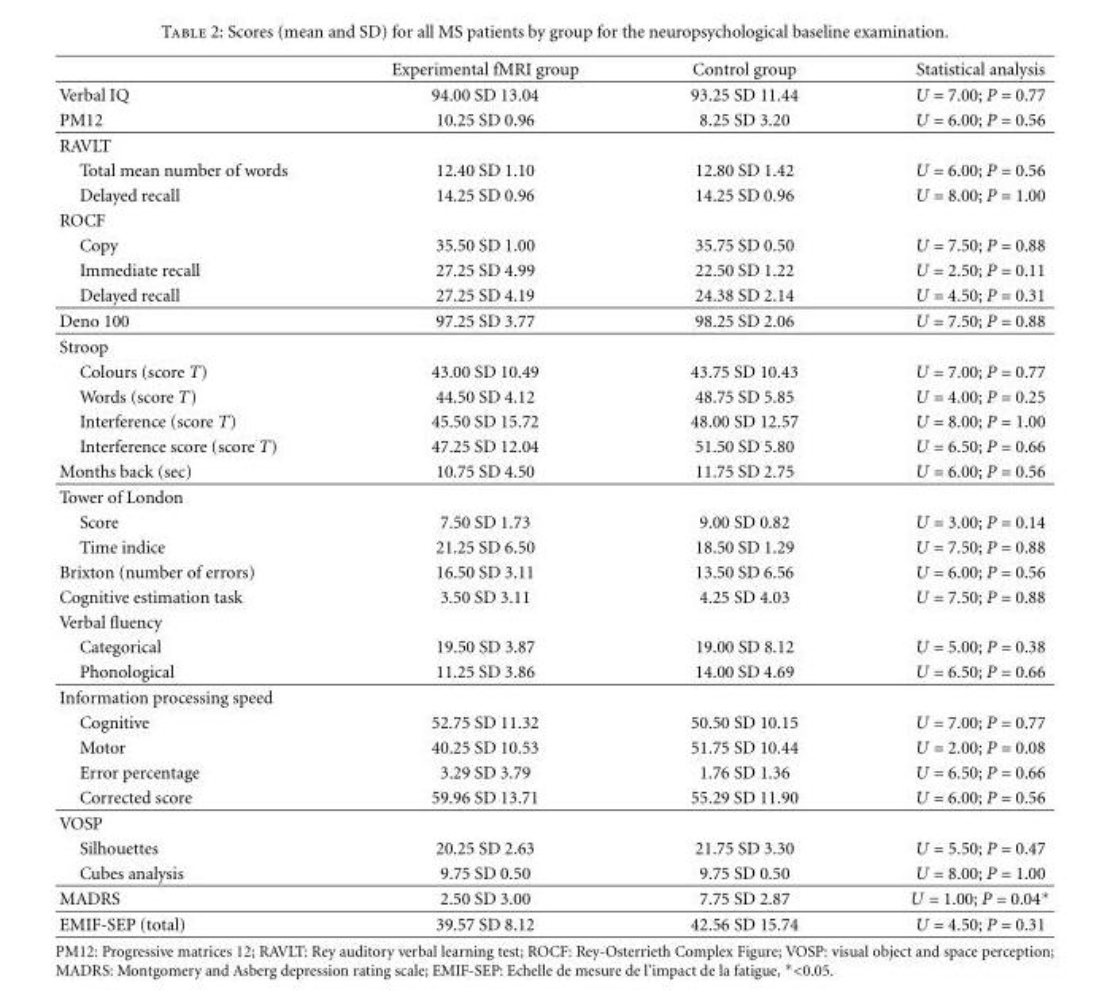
<table><thead><tr><td></td><td>Experimental fMRI group</td><td>Control group</td><td>Statistical analysis</td></tr></thead><tbody><tr><td>Verbal IQ</td><td>94.00 SD 13.04</td><td>93.25 SD 11.44</td><td>U = 7.00; P = 0.77</td></tr><tr><td>PM12</td><td>10.25 SD 0.96</td><td>8.25 SD 3.20</td><td>U = 6.00; P = 0.56</td></tr><tr><td colspan="4">RAVLT</td></tr><tr><td>Total mean number of words</td><td>12.40 SD 1.10</td><td>12.80 SD 1.42</td><td>U = 6.00; P = 0.56</td></tr><tr><td>Delayed recall</td><td>14.25 SD 0.96</td><td>14.25 SD 0.96</td><td>U = 8.00; P = 1.00</td></tr><tr><td colspan="4">ROCF</td></tr><tr><td>Copy</td><td>35.50 SD 1.00</td><td>35.75 SD 0.50</td><td>U = 7.50; P = 0.88</td></tr><tr><td>Immediate recall</td><td>27.25 SD 4.99</td><td>22.50 SD 1.22</td><td>U = 2.50; P = 0.11</td></tr><tr><td>Delayed recall</td><td>27.25 SD 4.19</td><td>24.38 SD 2.14</td><td>U = 4.50; P = 0.31</td></tr><tr><td>Deno 100</td><td>97.25 SD 3.77</td><td>98.25 SD 2.06</td><td>U = 7.50; P = 0.88</td></tr><tr><td colspan="4">Stroop</td></tr><tr><td>Colours (score T)</td><td>43.00 SD 10.49</td><td>43.75 SD 10.43</td><td>U = 7.00; P = 0.77</td></tr><tr><td>Words (score T)</td><td>44.50 SD 4.12</td><td>48.75 SD 5.85</td><td>U = 4.00; P = 0.25</td></tr><tr><td>Interference (score T)</td><td>45.50 SD 15.72</td><td>48.00 SD 12.57</td><td>U = 8.00; P = 1.00</td></tr><tr><td>Interference score (score T)</td><td>47.25 SD 12.04</td><td>51.50 SD 5.80</td><td>U = 6.50; P = 0.66</td></tr><tr><td>Months back (sec)</td><td>10.75 SD 4.50</td><td>11.75 SD 2.75</td><td>U = 6.00; P = 0.56</td></tr><tr><td colspan="4">Tower of London</td></tr><tr><td>Score</td><td>7.50 SD 1.73</td><td>9.00 SD 0.82</td><td>U = 3.00; P = 0.14</td></tr><tr><td>Time indice</td><td>21.25 SD 6.50</td><td>18.50 SD 1.29</td><td>U = 7.50; P = 0.88</td></tr><tr><td>Brixton (number of errors)</td><td>16.50 SD 3.11</td><td>13.50 SD 6.56</td><td>U = 6.00; P = 0.56</td></tr><tr><td>Cognitive estimation task</td><td>3.50 SD 3.11</td><td>4.25 SD 4.03</td><td>U = 7.50; P = 0.88</td></tr><tr><td colspan="4">Verbal fluency</td></tr><tr><td>Categorical</td><td>19.50 SD 3.87</td><td>19.00 SD 8.12</td><td>U = 5.00; P = 0.38</td></tr><tr><td>Phonological</td><td>11.25 SD 3.86</td><td>14.00 SD 4.69</td><td>U = 6.50; P = 0.66</td></tr><tr><td colspan="4">Information processing speed</td></tr><tr><td>Cognitive</td><td>52.75 SD 11.32</td><td>50.50 SD 10.15</td><td>U = 7.00; P = 0.77</td></tr><tr><td>Motor</td><td>40.25 SD 10.53</td><td>51.75 SD 10.44</td><td>U = 2.00; P = 0.08</td></tr><tr><td>Error percentage</td><td>3.29 SD 3.79</td><td>1.76 SD 1.36</td><td>U = 6.50; P = 0.66</td></tr><tr><td>Corrected score</td><td>59.96 SD 13.71</td><td>55.29 SD 11.90</td><td>U = 6.00; P = 0.56</td></tr><tr><td colspan="4">VOSP</td></tr><tr><td>Silhouettes</td><td>20.25 SD 2.63</td><td>21.75 SD 3.30</td><td>U = 5.50; P = 0.47</td></tr><tr><td>Cubes analysis</td><td>9.75 SD 0.50</td><td>9.75 SD 0.50</td><td>U = 8.00; P = 1.00</td></tr><tr><td>MADRS</td><td>2.50 SD 3.00</td><td>7.75 SD 2.87</td><td>U = 1.00; P = 0.04∗</td></tr><tr><td>EMIF-SEP (total)</td><td>39.57 SD 8.12</td><td>42.56 SD 15.74</td><td>U = 4.50; P = 0.31</td></tr></tbody></table>